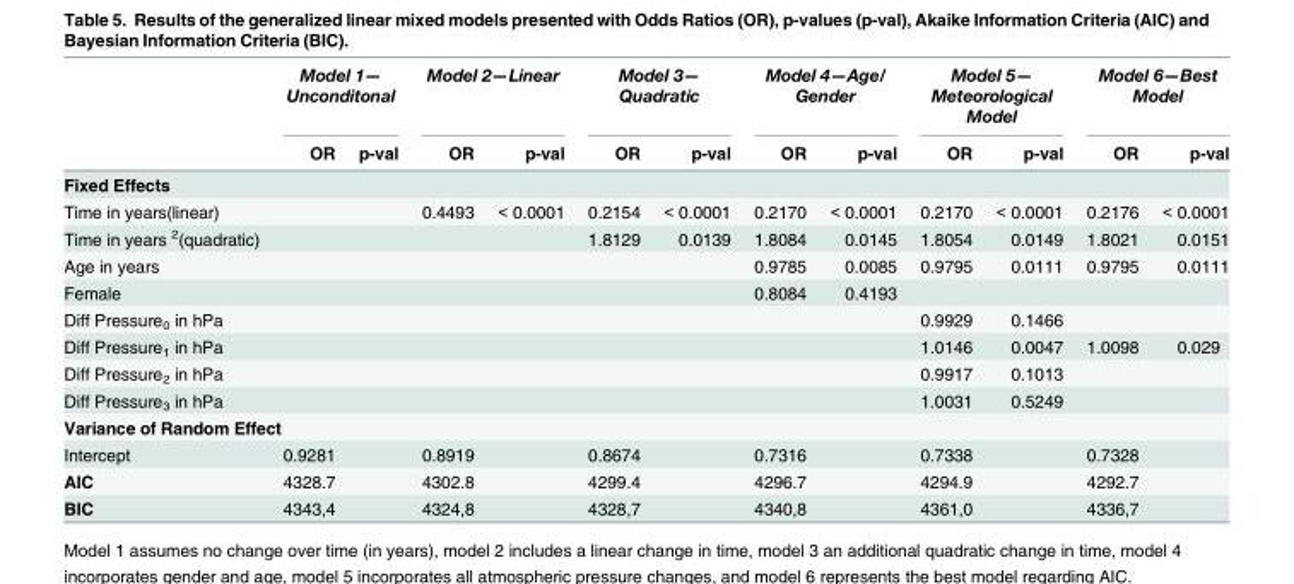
<table><thead><tr><td rowspan="2"></td><td colspan="2">Model 1— Unconditonal</td><td colspan="2">Model 2—Linear</td><td colspan="2">Model 3— Quadratic</td><td colspan="2">Model 4—Age/ Gender</td><td colspan="2">Model 5— Meteorological Model</td><td colspan="2">Model 6—Best Model</td></tr><tr><td>OR</td><td>p-val</td><td>OR</td><td>p-val</td><td>OR</td><td>p-val</td><td>OR</td><td>p-val</td><td>OR</td><td>p-val</td><td>OR</td><td>p-val</td></tr></thead><tbody><tr><td colspan="13">Fixed Effects</td></tr><tr><td>Time in years(linear)</td><td></td><td></td><td>0.4493</td><td>&lt; 0.0001</td><td>0.2154</td><td>&lt; 0.0001</td><td>0.2170</td><td>&lt; 0.0001</td><td>0.2170</td><td>&lt; 0.0001</td><td>0.2176</td><td>&lt; 0.0001</td></tr><tr><td>Time in years <sup>2</sup>(quadratic)</td><td></td><td></td><td></td><td></td><td>1.8129</td><td>0.0139</td><td>1.8084</td><td>0.0145</td><td>1.8054</td><td>0.0149</td><td>1.8021</td><td>0.0151</td></tr><tr><td>Age in years</td><td></td><td></td><td></td><td></td><td></td><td></td><td>0.9785</td><td>0.0085</td><td>0.9795</td><td>0.0111</td><td>0.9795</td><td>0.0111</td></tr><tr><td>Female</td><td></td><td></td><td></td><td></td><td></td><td></td><td>0.8084</td><td>0.4193</td><td></td><td></td><td></td><td></td></tr><tr><td>Diff Pressure<sub>0</sub> in hPa</td><td></td><td></td><td></td><td></td><td></td><td></td><td></td><td></td><td>0.9929</td><td>0.1466</td><td></td><td></td></tr><tr><td>Diff Pressure<sub>1</sub> in hPa</td><td></td><td></td><td></td><td></td><td></td><td></td><td></td><td></td><td>1.0146</td><td>0.0047</td><td>1.0098</td><td>0.029</td></tr><tr><td>Diff Pressure<sub>2</sub> in hPa</td><td></td><td></td><td></td><td></td><td></td><td></td><td></td><td></td><td>0.9917</td><td>0.1013</td><td></td><td></td></tr><tr><td>Diff Pressure<sub>3</sub> in hPa</td><td></td><td></td><td></td><td></td><td></td><td></td><td></td><td></td><td>1.0031</td><td>0.5249</td><td></td><td></td></tr><tr><td colspan="13">Variance of Random Effect</td></tr><tr><td>Intercept</td><td>0.9281</td><td></td><td>0.8919</td><td></td><td>0.8674</td><td></td><td>0.7316</td><td></td><td>0.7338</td><td></td><td>0.7328</td><td></td></tr><tr><td>AIC</td><td>4328.7</td><td></td><td>4302.8</td><td></td><td>4299.4</td><td></td><td>4296.7</td><td></td><td>4294.9</td><td></td><td>4292.7</td><td></td></tr><tr><td>BIC</td><td>4343,4</td><td></td><td>4324,8</td><td></td><td>4328,7</td><td></td><td>4340,8</td><td></td><td>4361,0</td><td></td><td>4336,7</td><td></td></tr></tbody></table>